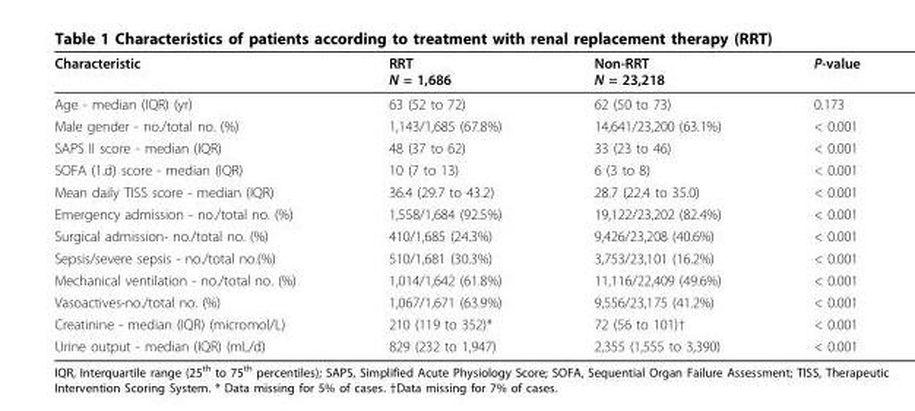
<table><thead><tr><td>Characteristic</td><td>RRT N = 1,686</td><td>Non-RRT N = 23,218</td><td>P-value</td></tr></thead><tbody><tr><td>Age - median (IQR) (yr)</td><td>63 (52 to 72)</td><td>62 (50 to 73)</td><td>0.173</td></tr><tr><td>Male gender - no./total no. (%)</td><td>1,143/1,685 (67.8%)</td><td>14,641/23,200 (63.1%)</td><td>&lt; 0.001</td></tr><tr><td>SAPS II score - median (IQR)</td><td>48 (37 to 62)</td><td>33 (23 to 46)</td><td>&lt; 0.001</td></tr><tr><td>SOFA (1.d) score - median (IQR)</td><td>10 (7 to 13)</td><td>6 (3 to 8)</td><td>&lt; 0.001</td></tr><tr><td>Mean daily TISS score - median (IQR)</td><td>36.4 (29.7 to 43.2)</td><td>28.7 (22.4 to 35.0)</td><td>&lt; 0.001</td></tr><tr><td>Emergency admission - no./total no. (%)</td><td>1,558/1,684 (92.5%)</td><td>19,122/23,202 (82.4%)</td><td>&lt; 0.001</td></tr><tr><td>Surgical admission- no./total no. (%)</td><td>410/1,685 (24.3%)</td><td>9,426/23,208 (40.6%)</td><td>&lt; 0.001</td></tr><tr><td>Sepsis/severe sepsis - no./total no.(%)</td><td>510/1,681 (30.3%)</td><td>3,753/23,101 (16.2%)</td><td>&lt; 0.001</td></tr><tr><td>Mechanical ventilation - no./total no. (%)</td><td>1,014/1,642 (61.8%)</td><td>11,116/22,409 (49.6%)</td><td>&lt; 0.001</td></tr><tr><td>Vasoactives-no./total no. (%)</td><td>1,067/1,671 (63.9%)</td><td>9,556/23,175 (41.2%)</td><td>&lt; 0.001</td></tr><tr><td>Creatinine - median (IQR) (micromol/L)</td><td>210 (119 to 352)*</td><td>72 (56 to 101)†</td><td>&lt; 0.001</td></tr><tr><td>Urine output - median (IQR) (mL/d)</td><td>829 (232 to 1,947)</td><td>2,355 (1,555 to 3,390)</td><td>&lt; 0.001</td></tr></tbody></table>